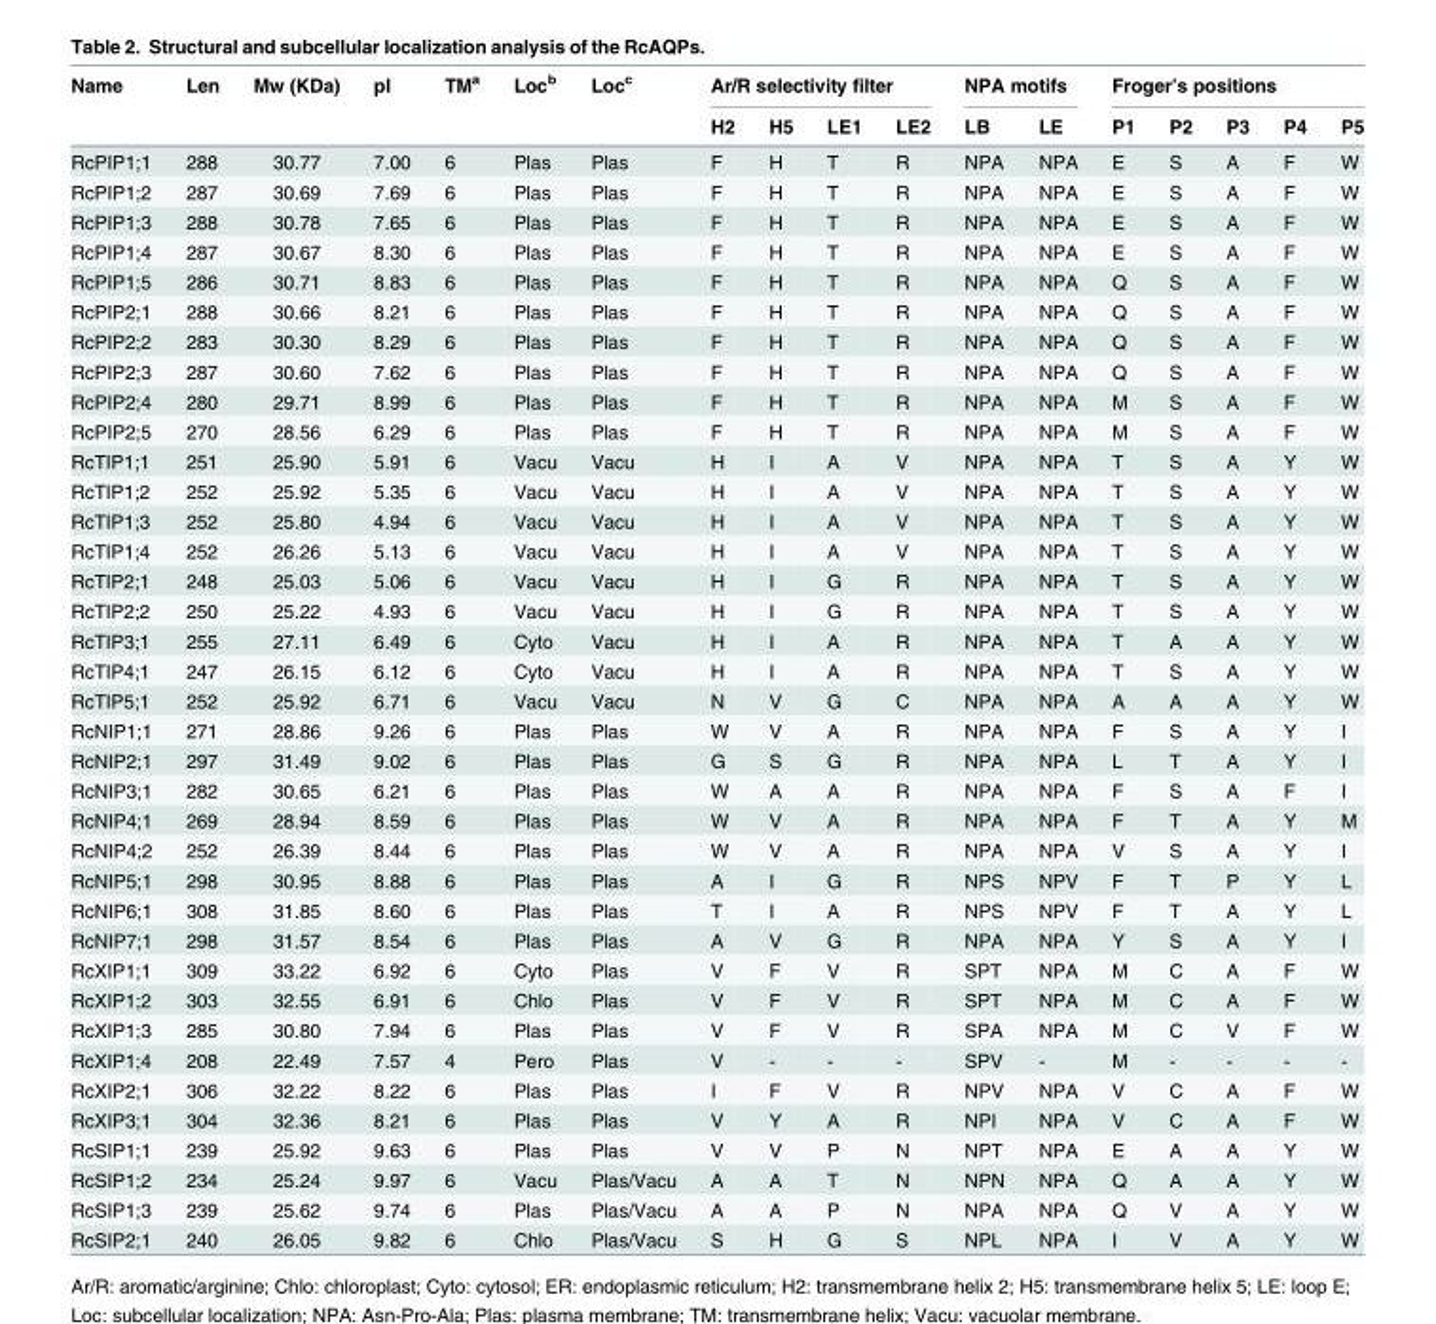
<table><thead><tr><td rowspan="2">Name</td><td rowspan="2">Len</td><td rowspan="2">Mw (KDa)</td><td rowspan="2">pI</td><td rowspan="2">TM<sup>a</sup></td><td rowspan="2">Loc<sup>b</sup></td><td rowspan="2">Loc<sup>c</sup></td><td colspan="4">Ar/R selectivity filter</td><td colspan="2">NPA motifs</td><td colspan="5">Froger’s positions</td></tr><tr><td>H2</td><td>H5</td><td>LE1</td><td>LE2</td><td>LB</td><td>LE</td><td>P1</td><td>P2</td><td>P3</td><td>P4</td><td>P5</td></tr></thead><tbody><tr><td>RcPIP1;1</td><td>288</td><td>30.77</td><td>7.00</td><td>6</td><td>Plas</td><td>Plas</td><td>F</td><td>H</td><td>T</td><td>R</td><td>NPA</td><td>NPA</td><td>E</td><td>S</td><td>A</td><td>F</td><td>W</td></tr><tr><td>RcPIP1;2</td><td>287</td><td>30.69</td><td>7.69</td><td>6</td><td>Plas</td><td>Plas</td><td>F</td><td>H</td><td>T</td><td>R</td><td>NPA</td><td>NPA</td><td>E</td><td>S</td><td>A</td><td>F</td><td>W</td></tr><tr><td>RcPIP1;3</td><td>288</td><td>30.78</td><td>7.65</td><td>6</td><td>Plas</td><td>Plas</td><td>F</td><td>H</td><td>T</td><td>R</td><td>NPA</td><td>NPA</td><td>E</td><td>S</td><td>A</td><td>F</td><td>W</td></tr><tr><td>RcPIP1;4</td><td>287</td><td>30.67</td><td>8.30</td><td>6</td><td>Plas</td><td>Plas</td><td>F</td><td>H</td><td>T</td><td>R</td><td>NPA</td><td>NPA</td><td>E</td><td>S</td><td>A</td><td>F</td><td>W</td></tr><tr><td>RcPIP1;5</td><td>286</td><td>30.71</td><td>8.83</td><td>6</td><td>Plas</td><td>Plas</td><td>F</td><td>H</td><td>T</td><td>R</td><td>NPA</td><td>NPA</td><td>Q</td><td>S</td><td>A</td><td>F</td><td>W</td></tr><tr><td>RcPIP2;1</td><td>288</td><td>30.66</td><td>8.21</td><td>6</td><td>Plas</td><td>Plas</td><td>F</td><td>H</td><td>T</td><td>R</td><td>NPA</td><td>NPA</td><td>Q</td><td>S</td><td>A</td><td>F</td><td>W</td></tr><tr><td>RcPIP2;2</td><td>283</td><td>30.30</td><td>8.29</td><td>6</td><td>Plas</td><td>Plas</td><td>F</td><td>H</td><td>T</td><td>R</td><td>NPA</td><td>NPA</td><td>Q</td><td>S</td><td>A</td><td>F</td><td>W</td></tr><tr><td>RcPIP2;3</td><td>287</td><td>30.60</td><td>7.62</td><td>6</td><td>Plas</td><td>Plas</td><td>F</td><td>H</td><td>T</td><td>R</td><td>NPA</td><td>NPA</td><td>Q</td><td>S</td><td>A</td><td>F</td><td>W</td></tr><tr><td>RcPIP2;4</td><td>280</td><td>29.71</td><td>8.99</td><td>6</td><td>Plas</td><td>Plas</td><td>F</td><td>H</td><td>T</td><td>R</td><td>NPA</td><td>NPA</td><td>M</td><td>S</td><td>A</td><td>F</td><td>W</td></tr><tr><td>RcPIP2;5</td><td>270</td><td>28.56</td><td>6.29</td><td>6</td><td>Plas</td><td>Plas</td><td>F</td><td>H</td><td>T</td><td>R</td><td>NPA</td><td>NPA</td><td>M</td><td>S</td><td>A</td><td>F</td><td>W</td></tr><tr><td>RcTIP1;1</td><td>251</td><td>25.90</td><td>5.91</td><td>6</td><td>Vacu</td><td>Vacu</td><td>H</td><td>I</td><td>A</td><td>V</td><td>NPA</td><td>NPA</td><td>T</td><td>S</td><td>A</td><td>Y</td><td>W</td></tr><tr><td>RcTIP1;2</td><td>252</td><td>25.92</td><td>5.35</td><td>6</td><td>Vacu</td><td>Vacu</td><td>H</td><td>I</td><td>A</td><td>V</td><td>NPA</td><td>NPA</td><td>T</td><td>S</td><td>A</td><td>Y</td><td>W</td></tr><tr><td>RcTIP1;3</td><td>252</td><td>25.80</td><td>4.94</td><td>6</td><td>Vacu</td><td>Vacu</td><td>H</td><td>I</td><td>A</td><td>V</td><td>NPA</td><td>NPA</td><td>T</td><td>S</td><td>A</td><td>Y</td><td>W</td></tr><tr><td>RcTIP1;4</td><td>252</td><td>26.26</td><td>5.13</td><td>6</td><td>Vacu</td><td>Vacu</td><td>H</td><td>I</td><td>A</td><td>V</td><td>NPA</td><td>NPA</td><td>T</td><td>S</td><td>A</td><td>Y</td><td>W</td></tr><tr><td>RcTIP2;1</td><td>248</td><td>25.03</td><td>5.06</td><td>6</td><td>Vacu</td><td>Vacu</td><td>H</td><td>I</td><td>G</td><td>R</td><td>NPA</td><td>NPA</td><td>T</td><td>S</td><td>A</td><td>Y</td><td>W</td></tr><tr><td>RcTIP2;2</td><td>250</td><td>25.22</td><td>4.93</td><td>6</td><td>Vacu</td><td>Vacu</td><td>H</td><td>I</td><td>G</td><td>R</td><td>NPA</td><td>NPA</td><td>T</td><td>S</td><td>A</td><td>Y</td><td>W</td></tr><tr><td>RcTIP3;1</td><td>255</td><td>27.11</td><td>6.49</td><td>6</td><td>Cyto</td><td>Vacu</td><td>H</td><td>I</td><td>A</td><td>R</td><td>NPA</td><td>NPA</td><td>T</td><td>A</td><td>A</td><td>Y</td><td>W</td></tr><tr><td>RcTIP4;1</td><td>247</td><td>26.15</td><td>6.12</td><td>6</td><td>Cyto</td><td>Vacu</td><td>H</td><td>I</td><td>A</td><td>R</td><td>NPA</td><td>NPA</td><td>T</td><td>S</td><td>A</td><td>Y</td><td>W</td></tr><tr><td>RcTIP5;1</td><td>252</td><td>25.92</td><td>6.71</td><td>6</td><td>Vacu</td><td>Vacu</td><td>N</td><td>V</td><td>G</td><td>C</td><td>NPA</td><td>NPA</td><td>A</td><td>A</td><td>A</td><td>Y</td><td>W</td></tr><tr><td>RcNIP1;1</td><td>271</td><td>28.86</td><td>9.26</td><td>6</td><td>Plas</td><td>Plas</td><td>W</td><td>V</td><td>A</td><td>R</td><td>NPA</td><td>NPA</td><td>F</td><td>S</td><td>A</td><td>Y</td><td>I</td></tr><tr><td>RcNIP2;1</td><td>297</td><td>31.49</td><td>9.02</td><td>6</td><td>Plas</td><td>Plas</td><td>G</td><td>S</td><td>G</td><td>R</td><td>NPA</td><td>NPA</td><td>L</td><td>T</td><td>A</td><td>Y</td><td>I</td></tr><tr><td>RcNIP3;1</td><td>282</td><td>30.65</td><td>6.21</td><td>6</td><td>Plas</td><td>Plas</td><td>W</td><td>A</td><td>A</td><td>R</td><td>NPA</td><td>NPA</td><td>F</td><td>S</td><td>A</td><td>F</td><td>I</td></tr><tr><td>RcNIP4;1</td><td>269</td><td>28.94</td><td>8.59</td><td>6</td><td>Plas</td><td>Plas</td><td>W</td><td>V</td><td>A</td><td>R</td><td>NPA</td><td>NPA</td><td>F</td><td>T</td><td>A</td><td>Y</td><td>M</td></tr><tr><td>RcNIP4;2</td><td>252</td><td>26.39</td><td>8.44</td><td>6</td><td>Plas</td><td>Plas</td><td>W</td><td>V</td><td>A</td><td>R</td><td>NPA</td><td>NPA</td><td>V</td><td>S</td><td>A</td><td>Y</td><td>I</td></tr><tr><td>RcNIP5;1</td><td>298</td><td>30.95</td><td>8.88</td><td>6</td><td>Plas</td><td>Plas</td><td>A</td><td>I</td><td>G</td><td>R</td><td>NPS</td><td>NPV</td><td>F</td><td>T</td><td>P</td><td>Y</td><td>L</td></tr><tr><td>RcNIP6;1</td><td>308</td><td>31.85</td><td>8.60</td><td>6</td><td>Plas</td><td>Plas</td><td>T</td><td>I</td><td>A</td><td>R</td><td>NPS</td><td>NPV</td><td>F</td><td>T</td><td>A</td><td>Y</td><td>L</td></tr><tr><td>RcNIP7;1</td><td>298</td><td>31.57</td><td>8.54</td><td>6</td><td>Plas</td><td>Plas</td><td>A</td><td>V</td><td>G</td><td>R</td><td>NPA</td><td>NPA</td><td>Y</td><td>S</td><td>A</td><td>Y</td><td>I</td></tr><tr><td>RcXIP1;1</td><td>309</td><td>33.22</td><td>6.92</td><td>6</td><td>Cyto</td><td>Plas</td><td>V</td><td>F</td><td>V</td><td>R</td><td>SPT</td><td>NPA</td><td>M</td><td>C</td><td>A</td><td>F</td><td>W</td></tr><tr><td>RcXIP1;2</td><td>303</td><td>32.55</td><td>6.91</td><td>6</td><td>Chlo</td><td>Plas</td><td>V</td><td>F</td><td>V</td><td>R</td><td>SPT</td><td>NPA</td><td>M</td><td>C</td><td>A</td><td>F</td><td>W</td></tr><tr><td>RcXIP1;3</td><td>285</td><td>30.80</td><td>7.94</td><td>6</td><td>Plas</td><td>Plas</td><td>V</td><td>F</td><td>V</td><td>R</td><td>SPA</td><td>NPA</td><td>M</td><td>C</td><td>V</td><td>F</td><td>W</td></tr><tr><td>RcXIP1;4</td><td>208</td><td>22.49</td><td>7.57</td><td>4</td><td>Pero</td><td>Plas</td><td>V</td><td>-</td><td>-</td><td>-</td><td>SPV</td><td>-</td><td>M</td><td>-</td><td>-</td><td>-</td><td>-</td></tr><tr><td>RcXIP2;1</td><td>306</td><td>32.22</td><td>8.22</td><td>6</td><td>Plas</td><td>Plas</td><td>I</td><td>F</td><td>V</td><td>R</td><td>NPV</td><td>NPA</td><td>V</td><td>C</td><td>A</td><td>F</td><td>W</td></tr><tr><td>RcXIP3;1</td><td>304</td><td>32.36</td><td>8.21</td><td>6</td><td>Plas</td><td>Plas</td><td>V</td><td>Y</td><td>A</td><td>R</td><td>NPI</td><td>NPA</td><td>V</td><td>C</td><td>A</td><td>F</td><td>W</td></tr><tr><td>RcSIP1;1</td><td>239</td><td>25.92</td><td>9.63</td><td>6</td><td>Plas</td><td>Plas</td><td>V</td><td>V</td><td>P</td><td>N</td><td>NPT</td><td>NPA</td><td>E</td><td>A</td><td>A</td><td>Y</td><td>W</td></tr><tr><td>RcSIP1;2</td><td>234</td><td>25.24</td><td>9.97</td><td>6</td><td>Vacu</td><td>Plas/Vacu</td><td>A</td><td>A</td><td>T</td><td>N</td><td>NPN</td><td>NPA</td><td>Q</td><td>A</td><td>A</td><td>Y</td><td>W</td></tr><tr><td>RcSIP1;3</td><td>239</td><td>25.62</td><td>9.74</td><td>6</td><td>Plas</td><td>Plas/Vacu</td><td>A</td><td>A</td><td>P</td><td>N</td><td>NPA</td><td>NPA</td><td>Q</td><td>V</td><td>A</td><td>Y</td><td>W</td></tr><tr><td>RcSIP2;1</td><td>240</td><td>26.05</td><td>9.82</td><td>6</td><td>Chlo</td><td>Plas/Vacu</td><td>S</td><td>H</td><td>G</td><td>S</td><td>NPL</td><td>NPA</td><td>I</td><td>V</td><td>A</td><td>Y</td><td>W</td></tr></tbody></table>